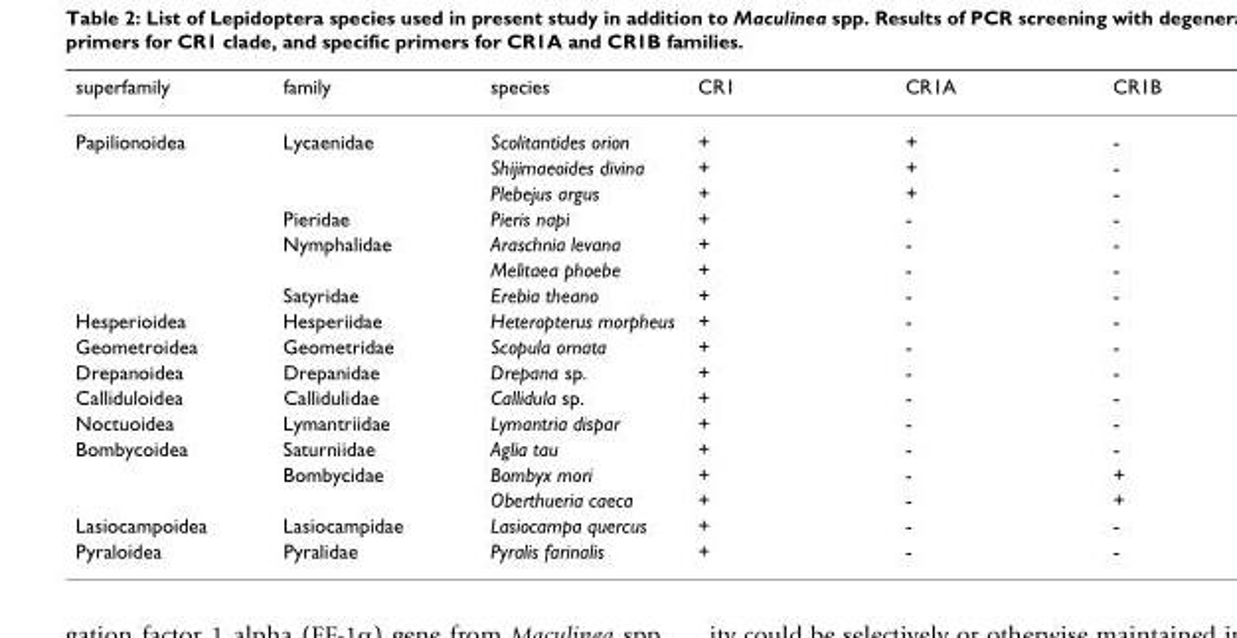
<table><thead><tr><td>superfamily</td><td>family</td><td>species</td><td>CR1</td><td>CR1A</td><td>CR1B</td></tr></thead><tbody><tr><td rowspan="7">Papilionoidea</td><td>Lycaenidae</td><td>Scolitantides orion</td><td>+</td><td>+</td><td>-</td></tr><tr><td></td><td>Shijimaeoides divina</td><td>+</td><td>+</td><td>-</td></tr><tr><td></td><td>Plebejus argus</td><td>+</td><td>+</td><td>-</td></tr><tr><td>Pieridae</td><td>Pieris napi</td><td>+</td><td>-</td><td>-</td></tr><tr><td>Nymphalidae</td><td>Araschnia levana</td><td>+</td><td>-</td><td>-</td></tr><tr><td></td><td>Melitaea phoebe</td><td>+</td><td>-</td><td>-</td></tr><tr><td>Satyridae</td><td>Erebia theano</td><td>+</td><td>-</td><td>-</td></tr><tr><td>Hesperioidea</td><td>Hesperiidae</td><td>Heteropterus morpheus</td><td>+</td><td>-</td><td>-</td></tr><tr><td>Geometroidea</td><td>Geometridae</td><td>Scopula ornata</td><td>+</td><td>-</td><td>-</td></tr><tr><td>Drepanoidea</td><td>Drepanidae</td><td>Drepana sp.</td><td>+</td><td>-</td><td>-</td></tr><tr><td>Calliduloidea</td><td>Callidulidae</td><td>Callidula sp.</td><td>+</td><td>-</td><td>-</td></tr><tr><td>Noctuoidea</td><td>Lymantriidae</td><td>Lymantria dispar</td><td>+</td><td>-</td><td>-</td></tr><tr><td rowspan="3">Bombycoidea</td><td>Saturniidae</td><td>Aglia tau</td><td>+</td><td>-</td><td>-</td></tr><tr><td>Bombycidae</td><td>Bombyx mori</td><td>+</td><td>-</td><td>+</td></tr><tr><td></td><td>Oberthueria caeca</td><td>+</td><td>-</td><td>+</td></tr><tr><td>Lasiocampoidea</td><td>Lasiocampidae</td><td>Lasiocampa quercus</td><td>+</td><td>-</td><td>-</td></tr><tr><td>Pyraloidea</td><td>Pyralidae</td><td>Pyralis farinalis</td><td>+</td><td>-</td><td>-</td></tr></tbody></table>